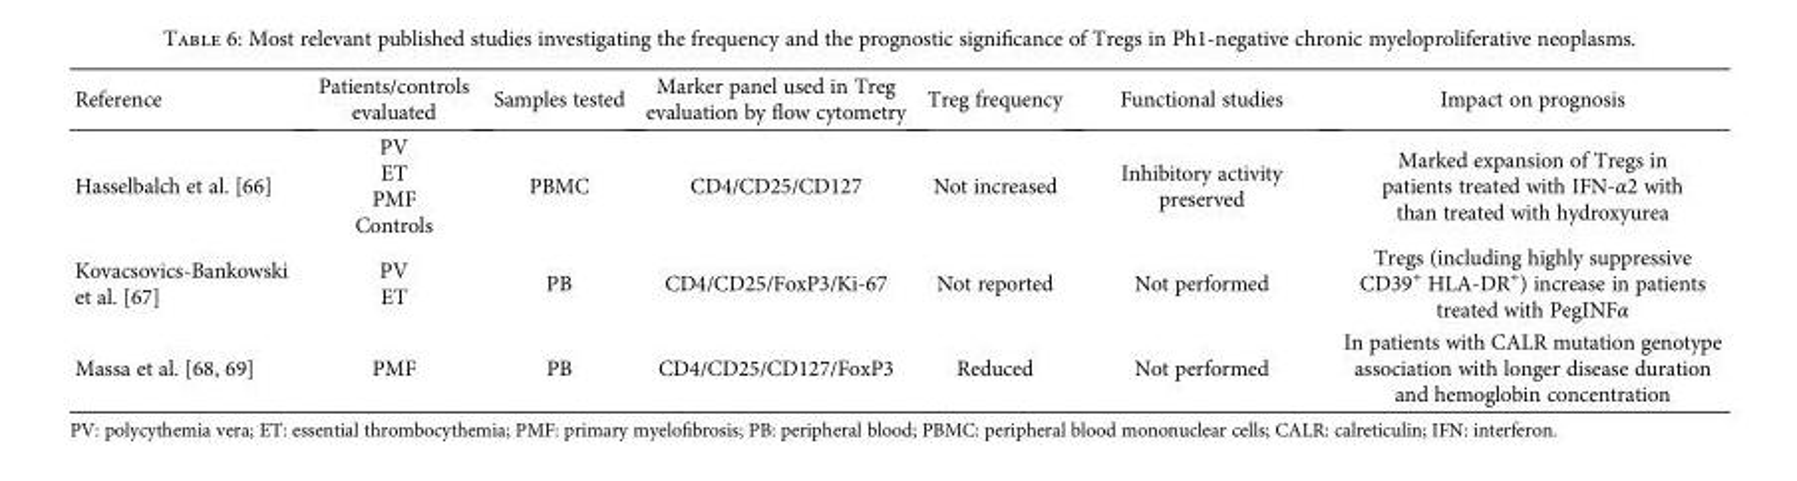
<table><thead><tr><td>Reference</td><td>Patients/controls evaluated</td><td>Samples tested</td><td>Marker panel used in Treg evaluation by flow cytometry</td><td>Treg frequency</td><td>Functional studies</td><td>Impact on prognosis</td></tr></thead><tbody><tr><td>Hasselbalch et al. [66]</td><td>PV ET PMF Controls</td><td>PBMC</td><td>CD4/CD25/CD127</td><td>Not increased</td><td>Inhibitory activity preserved</td><td>Marked expansion of Tregs in patients treated with IFN-α2 with than treated with hydroxyurea</td></tr><tr><td>Kovacsovics-Bankowski et al. [67]</td><td>PV ET</td><td>PB</td><td>CD4/CD25/FoxP3/Ki-67</td><td>Not reported</td><td>Not performed</td><td>Tregs (including highly suppressive CD39<sup>+</sup> HLA-DR<sup>+</sup>) increase in patients treated with PegINFα</td></tr><tr><td>Massa et al. [68, 69]</td><td>PMF</td><td>PB</td><td>CD4/CD25/CD127/FoxP3</td><td>Reduced</td><td>Not performed</td><td>In patients with CALR mutation genotype association with longer disease duration and hemoglobin concentration</td></tr></tbody></table>